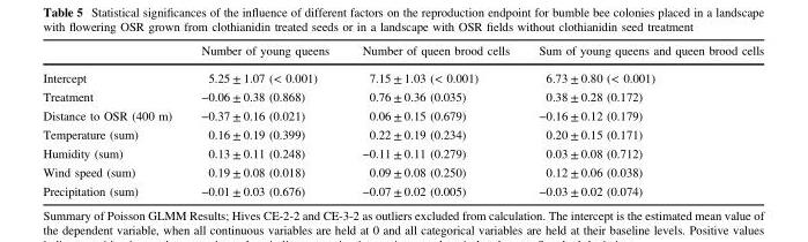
<table><thead><tr><td></td><td>Number of young queens</td><td>Number of queen brood cells</td><td>Sum of young queens and queen brood cells</td></tr></thead><tbody><tr><td>Intercept</td><td>5.25 ± 1.07 (&lt; 0.001)</td><td>7.15 ± 1.03 (&lt; 0.001)</td><td>6.73 ± 0.80 (&lt; 0.001)</td></tr><tr><td>Treatment</td><td>−0.06 ± 0.38 (0.868)</td><td>0.76 ± 0.36 (0.035)</td><td>0.38 ± 0.28 (0.172)</td></tr><tr><td>Distance to OSR (400 m)</td><td>−0.37 ± 0.16 (0.021)</td><td>0.06 ± 0.15 (0.679)</td><td>−0.16 ± 0.12 (0.179)</td></tr><tr><td>Temperature (sum)</td><td>0.16 ± 0.19 (0.399)</td><td>0.22 ± 0.19 (0.234)</td><td>0.20 ± 0.15 (0.171)</td></tr><tr><td>Humidity (sum)</td><td>0.13 ± 0.11 (0.248)</td><td>−0.11 ± 0.11 (0.279)</td><td>0.03 ± 0.08 (0.712)</td></tr><tr><td>Wind speed (sum)</td><td>0.19 ± 0.08 (0.018)</td><td>0.09 ± 0.08 (0.250)</td><td>0.12 ± 0.06 (0.038)</td></tr><tr><td>Precipitation (sum)</td><td>−0.01 ± 0.03 (0.676)</td><td>−0.07 ± 0.02 (0.005)</td><td>−0.03 ± 0.02 (0.074)</td></tr></tbody></table>